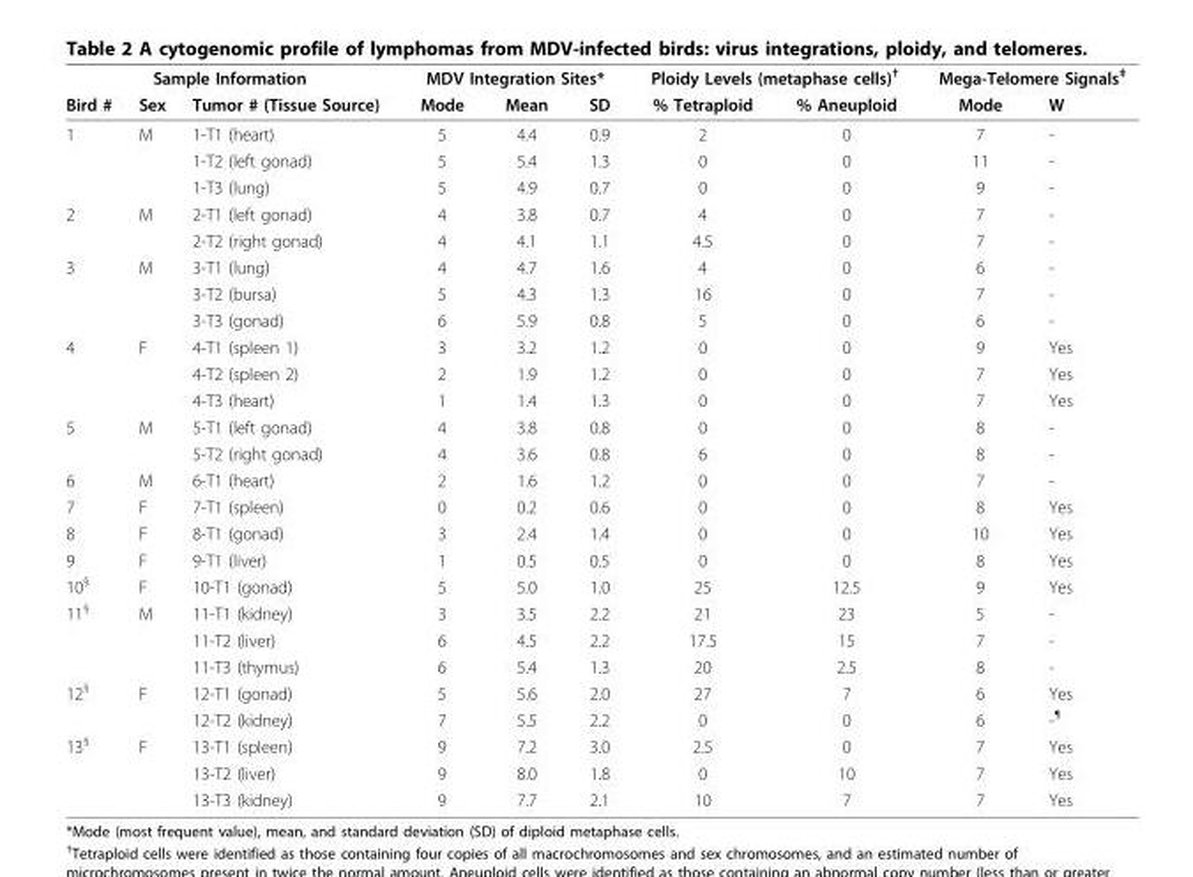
<table><thead><tr><td colspan="3">Sample Information</td><td colspan="3">MDV Integration Sites*</td><td colspan="2">Ploidy Levels (metaphase cells)<sup>†</sup></td><td colspan="2">Mega-Telomere Signals<sup>‡</sup></td></tr><tr><td>Bird #</td><td>Sex</td><td>Tumor # (Tissue Source)</td><td>Mode</td><td>Mean</td><td>SD</td><td>% Tetraploid</td><td>% Aneuploid</td><td>Mode</td><td>W</td></tr></thead><tbody><tr><td rowspan="3">1</td><td>M</td><td>1-T1 (heart)</td><td>5</td><td>4.4</td><td>0.9</td><td>2</td><td>0</td><td>7</td><td>-</td></tr><tr><td></td><td>1-T2 (left gonad)</td><td>5</td><td>5.4</td><td>1.3</td><td>0</td><td>0</td><td>11</td><td>-</td></tr><tr><td></td><td>1-T3 (lung)</td><td>5</td><td>4.9</td><td>0.7</td><td>0</td><td>0</td><td>9</td><td>-</td></tr><tr><td rowspan="2">2</td><td>M</td><td>2-T1 (left gonad)</td><td>4</td><td>3.8</td><td>0.7</td><td>4</td><td>0</td><td>7</td><td>-</td></tr><tr><td></td><td>2-T2 (right gonad)</td><td>4</td><td>4.1</td><td>1.1</td><td>4.5</td><td>0</td><td>7</td><td>-</td></tr><tr><td rowspan="3">3</td><td>M</td><td>3-T1 (lung)</td><td>4</td><td>4.7</td><td>1.6</td><td>4</td><td>0</td><td>6</td><td>-</td></tr><tr><td></td><td>3-T2 (bursa)</td><td>5</td><td>4.3</td><td>1.3</td><td>16</td><td>0</td><td>7</td><td>-</td></tr><tr><td></td><td>3-T3 (gonad)</td><td>6</td><td>5.9</td><td>0.8</td><td>5</td><td>0</td><td>6</td><td>-</td></tr><tr><td rowspan="3">4</td><td>F</td><td>4-T1 (spleen 1)</td><td>3</td><td>3.2</td><td>1.2</td><td>0</td><td>0</td><td>9</td><td>Yes</td></tr><tr><td></td><td>4-T2 (spleen 2)</td><td>2</td><td>1.9</td><td>1.2</td><td>0</td><td>0</td><td>7</td><td>Yes</td></tr><tr><td></td><td>4-T3 (heart)</td><td>1</td><td>1.4</td><td>1.3</td><td>0</td><td>0</td><td>7</td><td>Yes</td></tr><tr><td rowspan="2">5</td><td>M</td><td>5-T1 (left gonad)</td><td>4</td><td>3.8</td><td>0.8</td><td>0</td><td>0</td><td>8</td><td>-</td></tr><tr><td></td><td>5-T2 (right gonad)</td><td>4</td><td>3.6</td><td>0.8</td><td>6</td><td>0</td><td>8</td><td>-</td></tr><tr><td>6</td><td>M</td><td>6-T1 (heart)</td><td>2</td><td>1.6</td><td>1.2</td><td>0</td><td>0</td><td>7</td><td>-</td></tr><tr><td>7</td><td>F</td><td>7-T1 (spleen)</td><td>0</td><td>0.2</td><td>0.6</td><td>0</td><td>0</td><td>8</td><td>Yes</td></tr><tr><td>8</td><td>F</td><td>8-T1 (gonad)</td><td>3</td><td>2.4</td><td>1.4</td><td>0</td><td>0</td><td>10</td><td>Yes</td></tr><tr><td>9</td><td>F</td><td>9-T1 (liver)</td><td>1</td><td>0.5</td><td>0.5</td><td>0</td><td>0</td><td>8</td><td>Yes</td></tr><tr><td>10<sup>§</sup></td><td>F</td><td>10-T1 (gonad)</td><td>5</td><td>5.0</td><td>1.0</td><td>25</td><td>12.5</td><td>9</td><td>Yes</td></tr><tr><td rowspan="3">11<sup>§</sup></td><td>M</td><td>11-T1 (kidney)</td><td>3</td><td>3.5</td><td>2.2</td><td>21</td><td>23</td><td>5</td><td>-</td></tr><tr><td></td><td>11-T2 (liver)</td><td>6</td><td>4.5</td><td>2.2</td><td>17.5</td><td>15</td><td>7</td><td>-</td></tr><tr><td></td><td>11-T3 (thymus)</td><td>6</td><td>5.4</td><td>1.3</td><td>20</td><td>2.5</td><td>8</td><td>-</td></tr><tr><td rowspan="2">12<sup>§</sup></td><td>F</td><td>12-T1 (gonad)</td><td>5</td><td>5.6</td><td>2.0</td><td>27</td><td>7</td><td>6</td><td>Yes</td></tr><tr><td></td><td>12-T2 (kidney)</td><td>7</td><td>5.5</td><td>2.2</td><td>0</td><td>0</td><td>6</td><td>-<sup>¶</sup></td></tr><tr><td rowspan="3">13<sup>§</sup></td><td>F</td><td>13-T1 (spleen)</td><td>9</td><td>7.2</td><td>3.0</td><td>2.5</td><td>0</td><td>7</td><td>Yes</td></tr><tr><td></td><td>13-T2 (liver)</td><td>9</td><td>8.0</td><td>1.8</td><td>0</td><td>10</td><td>7</td><td>Yes</td></tr><tr><td></td><td>13-T3 (kidney)</td><td>9</td><td>7.7</td><td>2.1</td><td>10</td><td>7</td><td>7</td><td>Yes</td></tr></tbody></table>